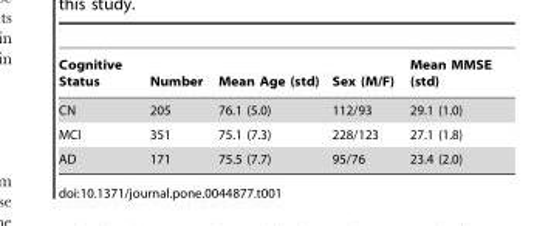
<table><thead><tr><td>Cognitive Status</td><td>Number</td><td>Mean Age (std)</td><td>Sex (M/F)</td><td>Mean MMSE (std)</td></tr></thead><tbody><tr><td>CN</td><td>205</td><td>76.1 (5.0)</td><td>112/93</td><td>29.1 (1.0)</td></tr><tr><td>MCI</td><td>351</td><td>75.1 (7.3)</td><td>228/123</td><td>27.1 (1.8)</td></tr><tr><td>AD</td><td>171</td><td>75.5 (7.7)</td><td>95/76</td><td>23.4 (2.0)</td></tr></tbody></table>